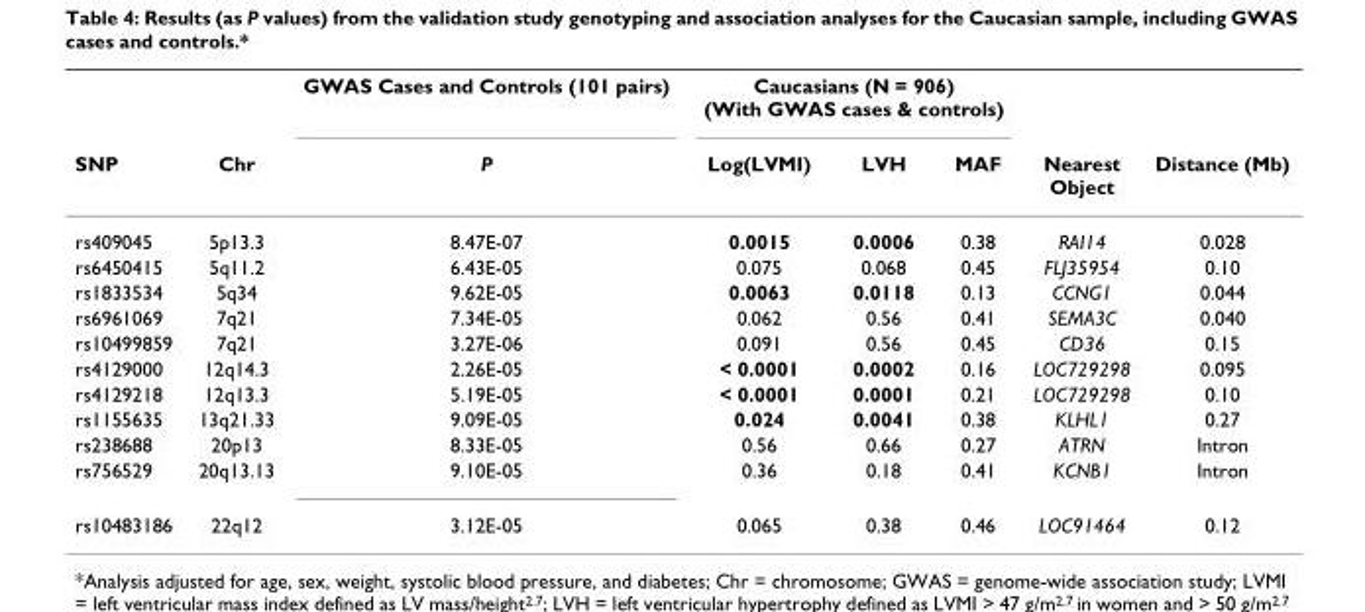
<table><thead><tr><td rowspan="2">SNP</td><td rowspan="2">Chr</td><td rowspan="2">GWAS Cases and Controls (101 pairs) P</td><td colspan="3">Caucasians (N = 906) (With GWAS cases &amp; controls)</td><td rowspan="2">Nearest Object</td><td rowspan="2">Distance (Mb)</td></tr><tr><td>Log(LVMI)</td><td>LVH</td><td>MAF</td></tr></thead><tbody><tr><td>rs409045</td><td>5p13.3</td><td>8.47E-07</td><td>0.0015</td><td>0.0006</td><td>0.38</td><td>RAI14</td><td>0.028</td></tr><tr><td>rs6450415</td><td>5q11.2</td><td>6.43E-05</td><td>0.075</td><td>0.068</td><td>0.45</td><td>FLJ35954</td><td>0.10</td></tr><tr><td>rs1833534</td><td>5q34</td><td>9.62E-05</td><td>0.0063</td><td>0.0118</td><td>0.13</td><td>CCNG1</td><td>0.044</td></tr><tr><td>rs6961069</td><td>7q21</td><td>7.34E-05</td><td>0.062</td><td>0.56</td><td>0.41</td><td>SEMA3C</td><td>0.040</td></tr><tr><td>rs10499859</td><td>7q21</td><td>3.27E-06</td><td>0.091</td><td>0.56</td><td>0.45</td><td>CD36</td><td>0.15</td></tr><tr><td>rs4129000</td><td>12q14.3</td><td>2.26E-05</td><td>&lt; 0.0001</td><td>0.0002</td><td>0.16</td><td>LOC729298</td><td>0.095</td></tr><tr><td>rs4129218</td><td>12q13.3</td><td>5.19E-05</td><td>&lt; 0.0001</td><td>0.0001</td><td>0.21</td><td>LOC729298</td><td>0.10</td></tr><tr><td>rs1155635</td><td>13q21.33</td><td>9.09E-05</td><td>0.024</td><td>0.0041</td><td>0.38</td><td>KLHL1</td><td>0.27</td></tr><tr><td>rs238688</td><td>20p13</td><td>8.33E-05</td><td>0.56</td><td>0.66</td><td>0.27</td><td>ATRN</td><td>Intron</td></tr><tr><td>rs756529</td><td>20q13.13</td><td>9.10E-05</td><td>0.36</td><td>0.18</td><td>0.41</td><td>KCNB1</td><td>Intron</td></tr><tr><td>rs10483186</td><td>22q12</td><td>3.12E-05</td><td>0.065</td><td>0.38</td><td>0.46</td><td>LOC91464</td><td>0.12</td></tr></tbody></table>